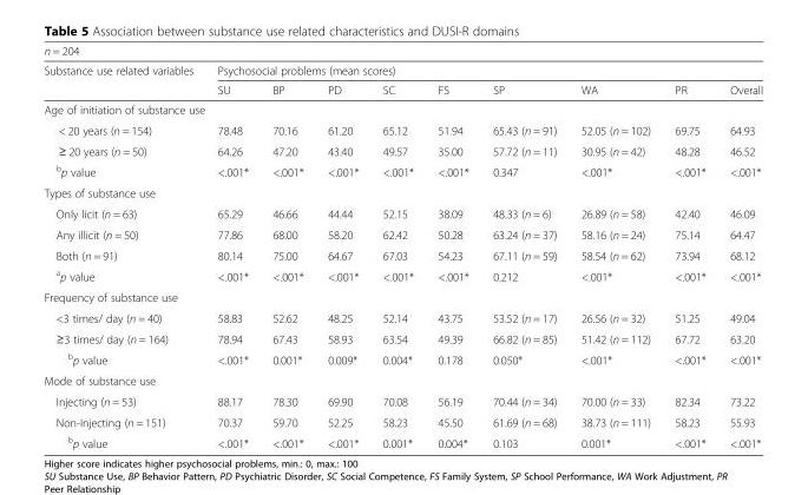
<table><thead><tr><td colspan="10">n = 204</td></tr><tr><td rowspan="2">Substance use related variables</td><td colspan="9">Psychosocial problems (mean scores)</td></tr><tr><td>SU</td><td>BP</td><td>PD</td><td>SC</td><td>FS</td><td>SP</td><td>WA</td><td>PR</td><td>Overall</td></tr></thead><tbody><tr><td colspan="10">Age of initiation of substance use</td></tr><tr><td>&lt; 20 years (n = 154)</td><td>78.48</td><td>70.16</td><td>61.20</td><td>65.12</td><td>51.94</td><td>65.43 (n = 91)</td><td>52.05 (n = 102)</td><td>69.75</td><td>64.93</td></tr><tr><td>≥ 20 years (n = 50)</td><td>64.26</td><td>47.20</td><td>43.40</td><td>49.57</td><td>35.00</td><td>57.72 (n = 11)</td><td>30.95 (n = 42)</td><td>48.28</td><td>46.52</td></tr><tr><td><sup>b</sup>p value</td><td>&lt;.001*</td><td>&lt;.001*</td><td>&lt;.001*</td><td>&lt;.001*</td><td>&lt;.001*</td><td>0.347</td><td>&lt;.001*</td><td>&lt;.001*</td><td>&lt;.001*</td></tr><tr><td colspan="10">Types of substance use</td></tr><tr><td>Only licit (n = 63)</td><td>65.29</td><td>46.66</td><td>44.44</td><td>52.15</td><td>38.09</td><td>48.33 (n = 6)</td><td>26.89 (n = 58)</td><td>42.40</td><td>46.09</td></tr><tr><td>Any illicit (n = 50)</td><td>77.86</td><td>68.00</td><td>58.20</td><td>62.42</td><td>50.28</td><td>63.24 (n = 37)</td><td>58.16 (n = 24)</td><td>75.14</td><td>64.47</td></tr><tr><td>Both (n = 91)</td><td>80.14</td><td>75.00</td><td>64.67</td><td>67.03</td><td>54.23</td><td>67.11 (n = 59)</td><td>58.54 (n = 62)</td><td>73.94</td><td>68.12</td></tr><tr><td><sup>a</sup>p value</td><td>&lt;.001*</td><td>&lt;.001*</td><td>&lt;.001*</td><td>&lt;.001*</td><td>&lt;.001*</td><td>0.212</td><td>&lt;.001*</td><td>&lt;.001*</td><td>&lt;.001*</td></tr><tr><td colspan="10">Frequency of substance use</td></tr><tr><td>&lt;3 times/ day (n = 40)</td><td>58.83</td><td>52.62</td><td>48.25</td><td>52.14</td><td>43.75</td><td>53.52 (n = 17)</td><td>26.56 (n = 32)</td><td>51.25</td><td>49.04</td></tr><tr><td>≥3 times/ day (n = 164)</td><td>78.94</td><td>67.43</td><td>58.93</td><td>63.54</td><td>49.39</td><td>66.82 (n = 85)</td><td>51.42 (n = 112)</td><td>67.72</td><td>63.20</td></tr><tr><td><sup>b</sup>p value</td><td>&lt;.001*</td><td>0.001*</td><td>0.009*</td><td>0.004*</td><td>0.178</td><td>0.050*</td><td>&lt;.001*</td><td>&lt;.001*</td><td>&lt;.001*</td></tr><tr><td colspan="10">Mode of substance use</td></tr><tr><td>Injecting (n = 53)</td><td>88.17</td><td>78.30</td><td>69.90</td><td>70.08</td><td>56.19</td><td>70.44 (n = 34)</td><td>70.00 (n = 33)</td><td>82.34</td><td>73.22</td></tr><tr><td>Non-Injecting (n = 151)</td><td>70.37</td><td>59.70</td><td>52.25</td><td>58.23</td><td>45.50</td><td>61.69 (n = 68)</td><td>38.73 (n = 111)</td><td>58.23</td><td>55.93</td></tr><tr><td><sup>b</sup>p value</td><td>&lt;.001*</td><td>&lt;.001*</td><td>&lt;.001*</td><td>0.001*</td><td>0.004*</td><td>0.103</td><td>0.001*</td><td>&lt;.001*</td><td>&lt;.001*</td></tr></tbody></table>